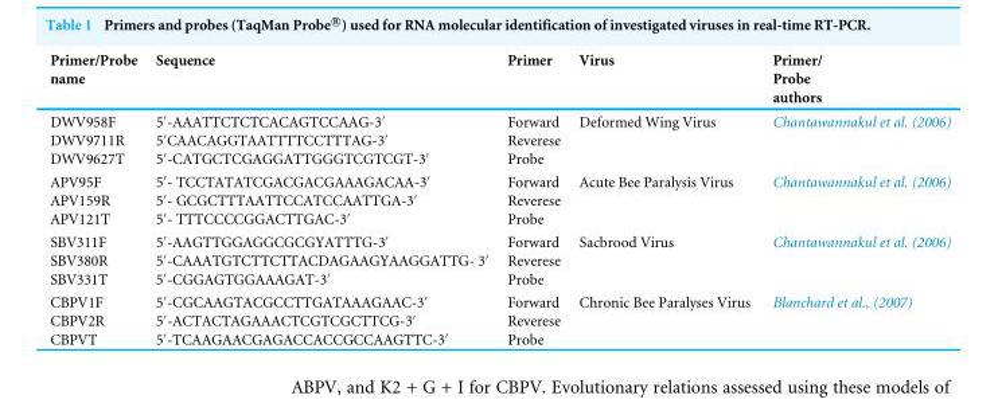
<table><thead><tr><td>Primer/Probe name</td><td>Sequence</td><td>Primer</td><td>Virus</td><td>Primer/ Probe authors</td></tr></thead><tbody><tr><td>DWV958F DWV9711R DWV9627T</td><td>5′-AAATTCTCTCACAGTCCAAG-3′ 5′CAACAGGTAATTTTCCTTTAG-3′ 5′-CATGCTCGAGGATTGGGTCGTCGT-3′</td><td>Forward Reverese Probe</td><td>Deformed Wing Virus</td><td>Chantawannakul et al. (2006)</td></tr><tr><td>APV95F APV159R APV121T</td><td>5′- TCCTATATCGACGACGAAAGACAA-3′ 5′- GCGCTTTAATTCCATCCAATTGA-3′ 5′- TTTCCCCGGACTTGAC-3′</td><td>Forward Reverese Probe</td><td>Acute Bee Paralysis Virus</td><td>Chantawannakul et al. (2006)</td></tr><tr><td>SBV311F SBV380R SBV331T</td><td>5′-AAGTTGGAGGCGCGYATTTG-3′ 5′-CAAATGTCTTCTTACDAGAAGYAAGGATTG- 3′ 5′-CGGAGTGGAAAGAT-3′</td><td>Forward Reverese Probe</td><td>Sacbrood Virus</td><td>Chantawannakul et al. (2006)</td></tr><tr><td>CBPV1F CBPV2R CBPVT</td><td>5′-CGCAAGTACGCCTTGATAAAGAAC-3′ 5′-ACTACTAGAAACTCGTCGCTTCG-3′ 5′-TCAAGAACGAGACCACCGCCAAGTTC-3′</td><td>Forward Reverese Probe</td><td>Chronic Bee Paralyses Virus</td><td>Blanchard et al., (2007)</td></tr></tbody></table>